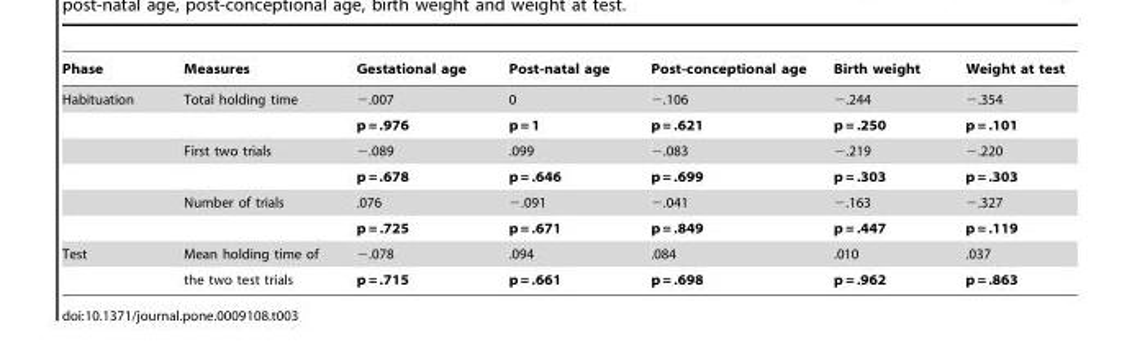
<table><thead><tr><td>Phase</td><td>Measures</td><td>Gestational age</td><td>Post-natal age</td><td>Post-conceptional age</td><td>Birth weight</td><td>Weight at test</td></tr></thead><tbody><tr><td rowspan="6">Habituation</td><td>Total holding time</td><td>−.007</td><td>0</td><td>−.106</td><td>−.244</td><td>−.354</td></tr><tr><td></td><td>p = .976</td><td>p = 1</td><td>p = .621</td><td>p = .250</td><td>p = .101</td></tr><tr><td>First two trials</td><td>−.089</td><td>.099</td><td>−.083</td><td>−.219</td><td>−.220</td></tr><tr><td></td><td>p = .678</td><td>p = .646</td><td>p = .699</td><td>p = .303</td><td>p = .303</td></tr><tr><td>Number of trials</td><td>.076</td><td>−.091</td><td>−.041</td><td>−.163</td><td>−.327</td></tr><tr><td></td><td>p = .725</td><td>p = .671</td><td>p = .849</td><td>p = .447</td><td>p = .119</td></tr><tr><td rowspan="2">Test</td><td>Mean holding time of</td><td>−.078</td><td>.094</td><td>.084</td><td>.010</td><td>.037</td></tr><tr><td>the two test trials</td><td>p = .715</td><td>p = .661</td><td>p = .698</td><td>p = .962</td><td>p = .863</td></tr></tbody></table>